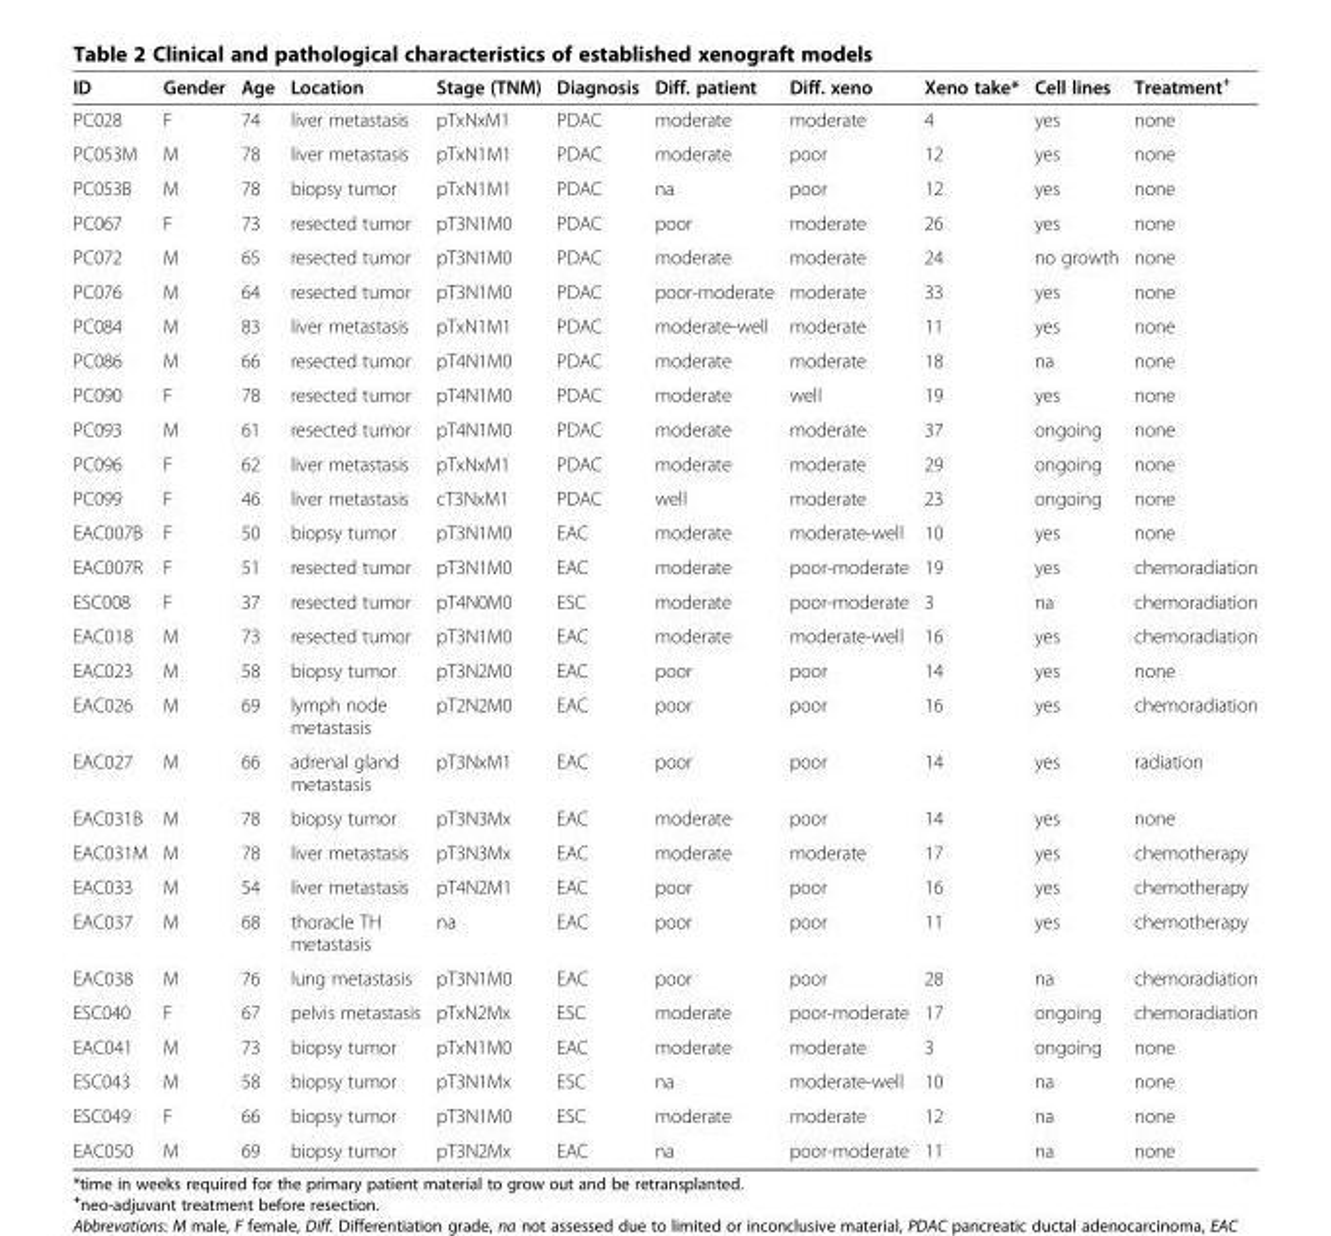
<table><thead><tr><td>ID</td><td>Gender</td><td>Age</td><td>Location</td><td>Stage (TNM)</td><td>Diagnosis</td><td>Diff. patient</td><td>Diff. xeno</td><td>Xeno take*</td><td>Cell lines</td><td>Treatment<sup>+</sup></td></tr></thead><tbody><tr><td>PC028</td><td>F</td><td>74</td><td>liver metastasis</td><td>pTxNxM1</td><td>PDAC</td><td>moderate</td><td>moderate</td><td>4</td><td>yes</td><td>none</td></tr><tr><td>PC053M</td><td>M</td><td>78</td><td>liver metastasis</td><td>pTxN1M1</td><td>PDAC</td><td>moderate</td><td>poor</td><td>12</td><td>yes</td><td>none</td></tr><tr><td>PC053B</td><td>M</td><td>78</td><td>biopsy tumor</td><td>pTxN1M1</td><td>PDAC</td><td>na</td><td>poor</td><td>12</td><td>yes</td><td>none</td></tr><tr><td>PC067</td><td>F</td><td>73</td><td>resected tumor</td><td>pT3N1M0</td><td>PDAC</td><td>poor</td><td>moderate</td><td>26</td><td>yes</td><td>none</td></tr><tr><td>PC072</td><td>M</td><td>65</td><td>resected tumor</td><td>pT3N1M0</td><td>PDAC</td><td>moderate</td><td>moderate</td><td>24</td><td>no growth</td><td>none</td></tr><tr><td>PC076</td><td>M</td><td>64</td><td>resected tumor</td><td>pT3N1M0</td><td>PDAC</td><td>poor-moderate</td><td>moderate</td><td>33</td><td>yes</td><td>none</td></tr><tr><td>PC084</td><td>M</td><td>83</td><td>liver metastasis</td><td>pTxN1M1</td><td>PDAC</td><td>moderate-well</td><td>moderate</td><td>11</td><td>yes</td><td>none</td></tr><tr><td>PC086</td><td>M</td><td>66</td><td>resected tumor</td><td>pT4N1M0</td><td>PDAC</td><td>moderate</td><td>moderate</td><td>18</td><td>na</td><td>none</td></tr><tr><td>PC090</td><td>F</td><td>78</td><td>resected tumor</td><td>pT4N1M0</td><td>PDAC</td><td>moderate</td><td>well</td><td>19</td><td>yes</td><td>none</td></tr><tr><td>PC093</td><td>M</td><td>61</td><td>resected tumor</td><td>pT4N1M0</td><td>PDAC</td><td>moderate</td><td>moderate</td><td>37</td><td>ongoing</td><td>none</td></tr><tr><td>PC096</td><td>F</td><td>62</td><td>liver metastasis</td><td>pTxNxM1</td><td>PDAC</td><td>moderate</td><td>moderate</td><td>29</td><td>ongoing</td><td>none</td></tr><tr><td>PC099</td><td>F</td><td>46</td><td>liver metastasis</td><td>cT3NxM1</td><td>PDAC</td><td>well</td><td>moderate</td><td>23</td><td>ongoing</td><td>none</td></tr><tr><td>EAC007B</td><td>F</td><td>50</td><td>biopsy tumor</td><td>pT3N1M0</td><td>EAC</td><td>moderate</td><td>moderate-well</td><td>10</td><td>yes</td><td>none</td></tr><tr><td>EAC007R</td><td>F</td><td>51</td><td>resected tumor</td><td>pT3N1M0</td><td>EAC</td><td>moderate</td><td>poor-moderate</td><td>19</td><td>yes</td><td>chemoradiation</td></tr><tr><td>ESC008</td><td>F</td><td>37</td><td>resected tumor</td><td>pT4N0M0</td><td>ESC</td><td>moderate</td><td>poor-moderate</td><td>3</td><td>na</td><td>chemoradiation</td></tr><tr><td>EAC018</td><td>M</td><td>73</td><td>resected tumor</td><td>pT3N1M0</td><td>EAC</td><td>moderate</td><td>moderate-well</td><td>16</td><td>yes</td><td>chemoradiation</td></tr><tr><td>EAC023</td><td>M</td><td>58</td><td>biopsy tumor</td><td>pT3N2M0</td><td>EAC</td><td>poor</td><td>poor</td><td>14</td><td>yes</td><td>none</td></tr><tr><td>EAC026</td><td>M</td><td>69</td><td>lymph node metastasis</td><td>pT2N2M0</td><td>EAC</td><td>poor</td><td>poor</td><td>16</td><td>yes</td><td>chemoradiation</td></tr><tr><td>EAC027</td><td>M</td><td>66</td><td>adrenal gland metastasis</td><td>pT3NxM1</td><td>EAC</td><td>poor</td><td>poor</td><td>14</td><td>yes</td><td>radiation</td></tr><tr><td>EAC031B</td><td>M</td><td>78</td><td>biopsy tumor</td><td>pT3N3Mx</td><td>EAC</td><td>moderate</td><td>poor</td><td>14</td><td>yes</td><td>none</td></tr><tr><td>EAC031M</td><td>M</td><td>78</td><td>liver metastasis</td><td>pT3N3Mx</td><td>EAC</td><td>moderate</td><td>moderate</td><td>17</td><td>yes</td><td>chemotherapy</td></tr><tr><td>EAC033</td><td>M</td><td>54</td><td>liver metastasis</td><td>pT4N2M1</td><td>EAC</td><td>poor</td><td>poor</td><td>16</td><td>yes</td><td>chemotherapy</td></tr><tr><td>EAC037</td><td>M</td><td>68</td><td>thoracle TH metastasis</td><td>na</td><td>EAC</td><td>poor</td><td>poor</td><td>11</td><td>yes</td><td>chemotherapy</td></tr><tr><td>EAC038</td><td>M</td><td>76</td><td>lung metastasis</td><td>pT3N1M0</td><td>EAC</td><td>poor</td><td>poor</td><td>28</td><td>na</td><td>chemoradiation</td></tr><tr><td>ESC040</td><td>F</td><td>67</td><td>pelvis metastasis</td><td>pTxN2Mx</td><td>ESC</td><td>moderate</td><td>poor-moderate</td><td>17</td><td>ongoing</td><td>chemoradiation</td></tr><tr><td>EAC041</td><td>M</td><td>73</td><td>biopsy tumor</td><td>pTxN1M0</td><td>EAC</td><td>moderate</td><td>moderate</td><td>3</td><td>ongoing</td><td>none</td></tr><tr><td>ESC043</td><td>M</td><td>58</td><td>biopsy tumor</td><td>pT3N1Mx</td><td>ESC</td><td>na</td><td>moderate-well</td><td>10</td><td>na</td><td>none</td></tr><tr><td>ESC049</td><td>F</td><td>66</td><td>biopsy tumor</td><td>pT3N1M0</td><td>ESC</td><td>moderate</td><td>moderate</td><td>12</td><td>na</td><td>none</td></tr><tr><td>EAC050</td><td>M</td><td>69</td><td>biopsy tumor</td><td>pT3N2Mx</td><td>EAC</td><td>na</td><td>poor-moderate</td><td>11</td><td>na</td><td>none</td></tr></tbody></table>